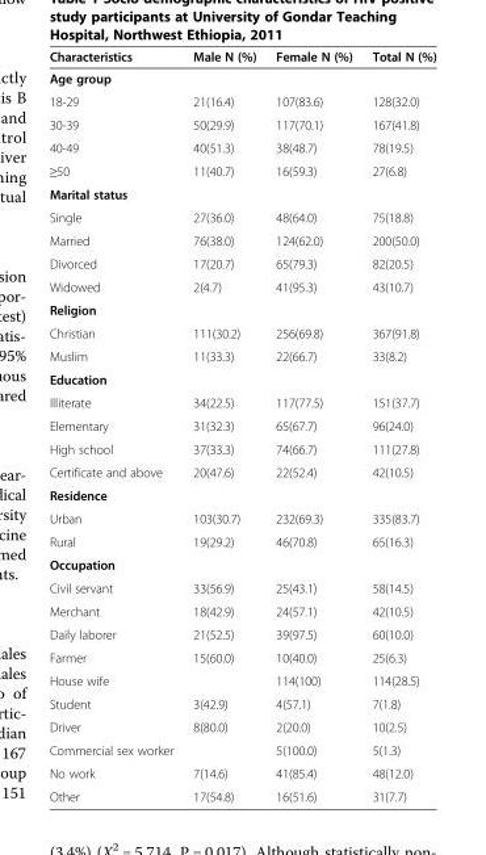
<table><thead><tr><td>Characteristics</td><td>Male N (%)</td><td>Female N (%)</td><td>Total N (%)</td></tr></thead><tbody><tr><td colspan="4">Age group</td></tr><tr><td>18-29</td><td>21(16.4)</td><td>107(83.6)</td><td>128(32.0)</td></tr><tr><td>30-39</td><td>50(29.9)</td><td>117(70.1)</td><td>167(41.8)</td></tr><tr><td>40-49</td><td>40(51.3)</td><td>38(48.7)</td><td>78(19.5)</td></tr><tr><td>≥50</td><td>11(40.7)</td><td>16(59.3)</td><td>27(6.8)</td></tr><tr><td colspan="4">Marital status</td></tr><tr><td>Single</td><td>27(36.0)</td><td>48(64.0)</td><td>75(18.8)</td></tr><tr><td>Married</td><td>76(38.0)</td><td>124(62.0)</td><td>200(50.0)</td></tr><tr><td>Divorced</td><td>17(20.7)</td><td>65(79.3)</td><td>82(20.5)</td></tr><tr><td>Widowed</td><td>2(4.7)</td><td>41(95.3)</td><td>43(10.7)</td></tr><tr><td colspan="4">Religion</td></tr><tr><td>Christian</td><td>111(30.2)</td><td>256(69.8)</td><td>367(91.8)</td></tr><tr><td>Muslim</td><td>11(33.3)</td><td>22(66.7)</td><td>33(8.2)</td></tr><tr><td colspan="4">Education</td></tr><tr><td>Illiterate</td><td>34(22.5)</td><td>117(77.5)</td><td>151(37.7)</td></tr><tr><td>Elementary</td><td>31(32.3)</td><td>65(67.7)</td><td>96(24.0)</td></tr><tr><td>High school</td><td>37(33.3)</td><td>74(66.7)</td><td>111(27.8)</td></tr><tr><td>Certificate and above</td><td>20(47.6)</td><td>22(52.4)</td><td>42(10.5)</td></tr><tr><td colspan="4">Residence</td></tr><tr><td>Urban</td><td>103(30.7)</td><td>232(69.3)</td><td>335(83.7)</td></tr><tr><td>Rural</td><td>19(29.2)</td><td>46(70.8)</td><td>65(16.3)</td></tr><tr><td colspan="4">Occupation</td></tr><tr><td>Civil servant</td><td>33(56.9)</td><td>25(43.1)</td><td>58(14.5)</td></tr><tr><td>Merchant</td><td>18(42.9)</td><td>24(57.1)</td><td>42(10.5)</td></tr><tr><td>Daily laborer</td><td>21(52.5)</td><td>39(97.5)</td><td>60(10.0)</td></tr><tr><td>Farmer</td><td>15(60.0)</td><td>10(40.0)</td><td>25(6.3)</td></tr><tr><td>House wife</td><td></td><td>114(100)</td><td>114(28.5)</td></tr><tr><td>Student</td><td>3(42.9)</td><td>4(57.1)</td><td>7(1.8)</td></tr><tr><td>Driver</td><td>8(80.0)</td><td>2(20.0)</td><td>10(2.5)</td></tr><tr><td>Commercial sex worker</td><td></td><td>5(100.0)</td><td>5(1.3)</td></tr><tr><td>No work</td><td>7(14.6)</td><td>41(85.4)</td><td>48(12.0)</td></tr><tr><td>Other</td><td>17(54.8)</td><td>16(51.6)</td><td>31(7.7)</td></tr></tbody></table>